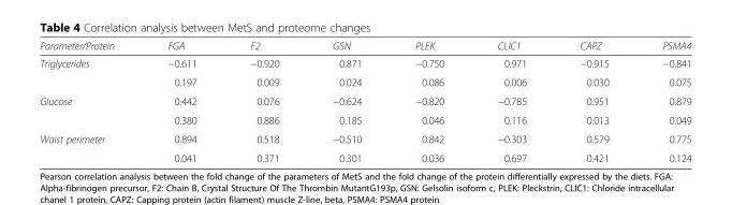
<table><thead><tr><td>Parameter/Protein</td><td>FGA</td><td>F2</td><td>GSN</td><td>PLEK</td><td>CLIC1</td><td>CAPZ</td><td>PSMA4</td></tr></thead><tbody><tr><td rowspan="2">Triglycerides</td><td>−0.611</td><td>−0.920</td><td>0.871</td><td>−0.750</td><td>0.971</td><td>−0.915</td><td>−0.841</td></tr><tr><td>0.197</td><td>0.009</td><td>0.024</td><td>0.086</td><td>0.006</td><td>0.030</td><td>0.075</td></tr><tr><td rowspan="2">Glucose</td><td>0.442</td><td>0.076</td><td>−0.624</td><td>−0.820</td><td>−0.785</td><td>0.951</td><td>0.879</td></tr><tr><td>0.380</td><td>0.886</td><td>0.185</td><td>0.046</td><td>0.116</td><td>0.013</td><td>0.049</td></tr><tr><td rowspan="2">Waist perimeter</td><td>0.894</td><td>0.518</td><td>−0.510</td><td>0.842</td><td>−0.303</td><td>0.579</td><td>0.775</td></tr><tr><td>0.041</td><td>0.371</td><td>0.301</td><td>0.036</td><td>0.697</td><td>0.421</td><td>0.124</td></tr></tbody></table>